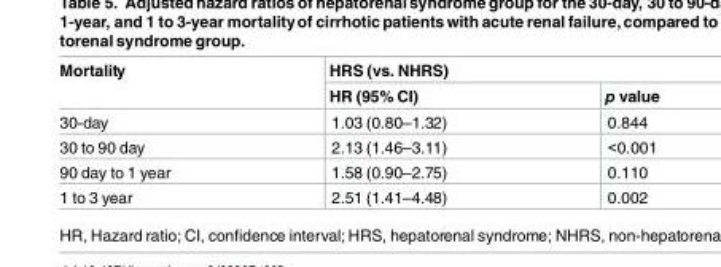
<table><thead><tr><td rowspan="2">Mortality</td><td colspan="2">HRS (vs. NHRS)</td></tr><tr><td>HR (95% CI)</td><td>p value</td></tr></thead><tbody><tr><td>30-day</td><td>1.03 (0.80–1.32)</td><td>0.844</td></tr><tr><td>30 to 90 day</td><td>2.13 (1.46–3.11)</td><td>&lt;0.001</td></tr><tr><td>90 day to 1 year</td><td>1.58 (0.90–2.75)</td><td>0.110</td></tr><tr><td>1 to 3 year</td><td>2.51 (1.41–4.48)</td><td>0.002</td></tr></tbody></table>